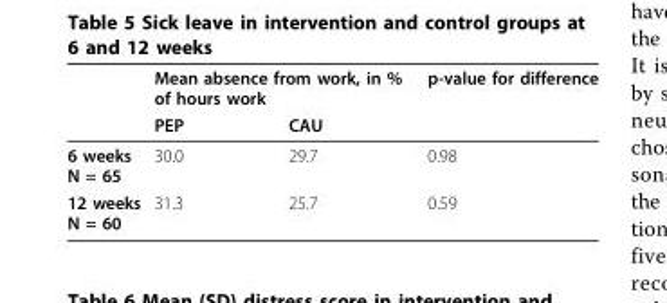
<table><thead><tr><td rowspan="2"></td><td colspan="2">Mean absence from work, in % of hours work</td><td rowspan="2">p-value for difference</td></tr><tr><td>PEP</td><td>CAU</td></tr></thead><tbody><tr><td>6 weeks N = 65</td><td>30.0</td><td>29.7</td><td>0.98</td></tr><tr><td>12 weeks N = 60</td><td>31.3</td><td>25.7</td><td>0.59</td></tr></tbody></table>